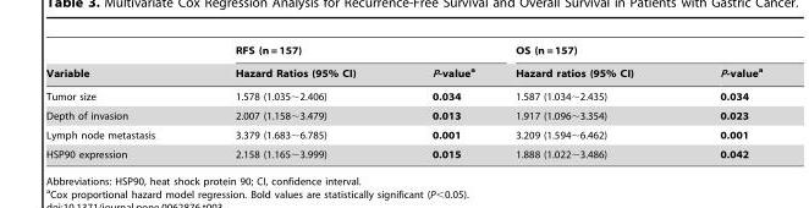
<table><thead><tr><td rowspan="2">Variable</td><td colspan="2">RFS (n = 157)</td><td colspan="2">OS (n = 157)</td></tr><tr><td>Hazard Ratios (95% CI)</td><td>P-value<sup>a</sup></td><td>Hazard ratios (95% CI)</td><td>P-value<sup>a</sup></td></tr></thead><tbody><tr><td>Tumor size</td><td>1.578 (1.035∼2.406)</td><td>0.034</td><td>1.587 (1.034∼2.435)</td><td>0.034</td></tr><tr><td>Depth of invasion</td><td>2.007 (1.158∼3.479)</td><td>0.013</td><td>1.917 (1.096∼3.354)</td><td>0.023</td></tr><tr><td>Lymph node metastasis</td><td>3.379 (1.683∼6.785)</td><td>0.001</td><td>3.209 (1.594∼6.462)</td><td>0.001</td></tr><tr><td>HSP90 expression</td><td>2.158 (1.165∼3.999)</td><td>0.015</td><td>1.888 (1.022∼3.486)</td><td>0.042</td></tr></tbody></table>